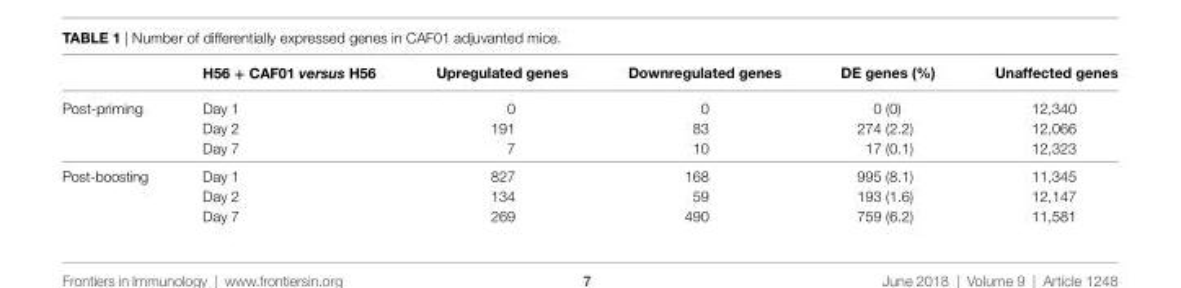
<table><thead><tr><td></td><td>h56 + caF01 versus h56</td><td>Upregulated genes</td><td>Downregulated genes</td><td>De genes (%)</td><td>Unaffected genes</td></tr></thead><tbody><tr><td rowspan="3">Post-priming</td><td>Day 1</td><td>0</td><td>0</td><td>0 (0)</td><td>12,340</td></tr><tr><td>Day 2</td><td>191</td><td>83</td><td>274 (2.2)</td><td>12,066</td></tr><tr><td>Day 7</td><td>7</td><td>10</td><td>17 (0.1)</td><td>12,323</td></tr><tr><td rowspan="3">Post-boosting</td><td>Day 1</td><td>827</td><td>168</td><td>995 (8.1)</td><td>11,345</td></tr><tr><td>Day 2</td><td>134</td><td>59</td><td>193 (1.6)</td><td>12,147</td></tr><tr><td>Day 7</td><td>269</td><td>490</td><td>759 (6.2)</td><td>11,581</td></tr></tbody></table>